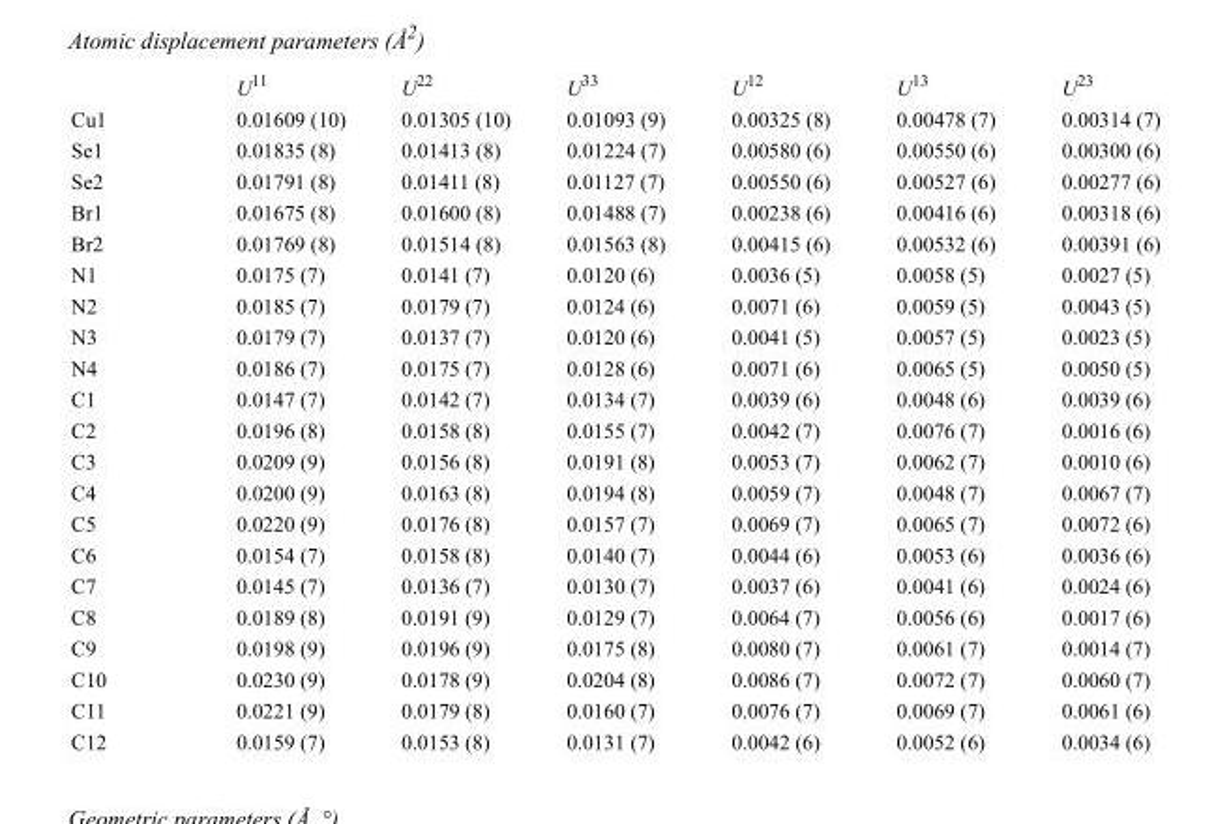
<table><thead><tr><td></td><td>U<sup>11</sup></td><td>U<sup>22</sup></td><td>U<sup>33</sup></td><td>U<sup>12</sup></td><td>U<sup>13</sup></td><td>U<sup>23</sup></td></tr></thead><tbody><tr><td>Cu1</td><td>0.01609 (10)</td><td>0.01305 (10)</td><td>0.01093 (9)</td><td>0.00325 (8)</td><td>0.00478 (7)</td><td>0.00314 (7)</td></tr><tr><td>Se1</td><td>0.01835 (8)</td><td>0.01413 (8)</td><td>0.01224 (7)</td><td>0.00580 (6)</td><td>0.00550 (6)</td><td>0.00300 (6)</td></tr><tr><td>Se2</td><td>0.01791 (8)</td><td>0.01411 (8)</td><td>0.01127 (7)</td><td>0.00550 (6)</td><td>0.00527 (6)</td><td>0.00277 (6)</td></tr><tr><td>Br1</td><td>0.01675 (8)</td><td>0.01600 (8)</td><td>0.01488 (7)</td><td>0.00238 (6)</td><td>0.00416 (6)</td><td>0.00318 (6)</td></tr><tr><td>Br2</td><td>0.01769 (8)</td><td>0.01514 (8)</td><td>0.01563 (8)</td><td>0.00415 (6)</td><td>0.00532 (6)</td><td>0.00391 (6)</td></tr><tr><td>N1</td><td>0.0175 (7)</td><td>0.0141 (7)</td><td>0.0120 (6)</td><td>0.0036 (5)</td><td>0.0058 (5)</td><td>0.0027 (5)</td></tr><tr><td>N2</td><td>0.0185 (7)</td><td>0.0179 (7)</td><td>0.0124 (6)</td><td>0.0071 (6)</td><td>0.0059 (5)</td><td>0.0043 (5)</td></tr><tr><td>N3</td><td>0.0179 (7)</td><td>0.0137 (7)</td><td>0.0120 (6)</td><td>0.0041 (5)</td><td>0.0057 (5)</td><td>0.0023 (5)</td></tr><tr><td>N4</td><td>0.0186 (7)</td><td>0.0175 (7)</td><td>0.0128 (6)</td><td>0.0071 (6)</td><td>0.0065 (5)</td><td>0.0050 (5)</td></tr><tr><td>C1</td><td>0.0147 (7)</td><td>0.0142 (7)</td><td>0.0134 (7)</td><td>0.0039 (6)</td><td>0.0048 (6)</td><td>0.0039 (6)</td></tr><tr><td>C2</td><td>0.0196 (8)</td><td>0.0158 (8)</td><td>0.0155 (7)</td><td>0.0042 (7)</td><td>0.0076 (7)</td><td>0.0016 (6)</td></tr><tr><td>C3</td><td>0.0209 (9)</td><td>0.0156 (8)</td><td>0.0191 (8)</td><td>0.0053 (7)</td><td>0.0062 (7)</td><td>0.0010 (6)</td></tr><tr><td>C4</td><td>0.0200 (9)</td><td>0.0163 (8)</td><td>0.0194 (8)</td><td>0.0059 (7)</td><td>0.0048 (7)</td><td>0.0067 (7)</td></tr><tr><td>C5</td><td>0.0220 (9)</td><td>0.0176 (8)</td><td>0.0157 (7)</td><td>0.0069 (7)</td><td>0.0065 (7)</td><td>0.0072 (6)</td></tr><tr><td>C6</td><td>0.0154 (7)</td><td>0.0158 (8)</td><td>0.0140 (7)</td><td>0.0044 (6)</td><td>0.0053 (6)</td><td>0.0036 (6)</td></tr><tr><td>C7</td><td>0.0145 (7)</td><td>0.0136 (7)</td><td>0.0130 (7)</td><td>0.0037 (6)</td><td>0.0041 (6)</td><td>0.0024 (6)</td></tr><tr><td>C8</td><td>0.0189 (8)</td><td>0.0191 (9)</td><td>0.0129 (7)</td><td>0.0064 (7)</td><td>0.0056 (6)</td><td>0.0017 (6)</td></tr><tr><td>C9</td><td>0.0198 (9)</td><td>0.0196 (9)</td><td>0.0175 (8)</td><td>0.0080 (7)</td><td>0.0061 (7)</td><td>0.0014 (7)</td></tr><tr><td>C10</td><td>0.0230 (9)</td><td>0.0178 (9)</td><td>0.0204 (8)</td><td>0.0086 (7)</td><td>0.0072 (7)</td><td>0.0060 (7)</td></tr><tr><td>C11</td><td>0.0221 (9)</td><td>0.0179 (8)</td><td>0.0160 (7)</td><td>0.0076 (7)</td><td>0.0069 (7)</td><td>0.0061 (6)</td></tr><tr><td>C12</td><td>0.0159 (7)</td><td>0.0153 (8)</td><td>0.0131 (7)</td><td>0.0042 (6)</td><td>0.0052 (6)</td><td>0.0034 (6)</td></tr></tbody></table>